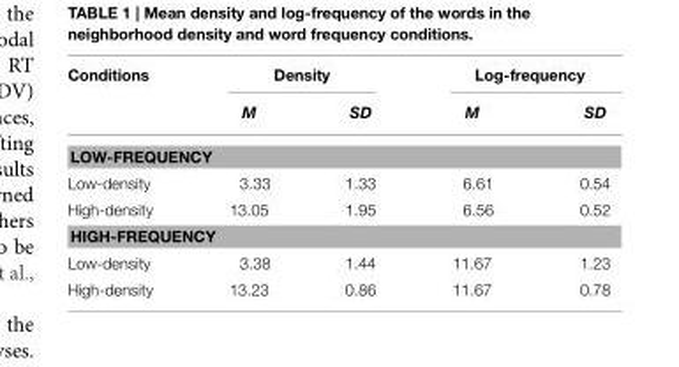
<table><thead><tr><td rowspan="2">Conditions</td><td colspan="2">Density</td><td colspan="2">Log-frequency</td></tr><tr><td>M</td><td>SD</td><td>M</td><td>SD</td></tr></thead><tbody><tr><td colspan="5">LOW-FREQUENCY</td></tr><tr><td>Low-density</td><td>3.33</td><td>1.33</td><td>6.61</td><td>0.54</td></tr><tr><td>High-density</td><td>13.05</td><td>1.95</td><td>6.56</td><td>0.52</td></tr><tr><td colspan="5">HIGH-FREQUENCY</td></tr><tr><td>Low-density</td><td>3.38</td><td>1.44</td><td>11.67</td><td>1.23</td></tr><tr><td>High-density</td><td>13.23</td><td>0.86</td><td>11.67</td><td>0.78</td></tr></tbody></table>